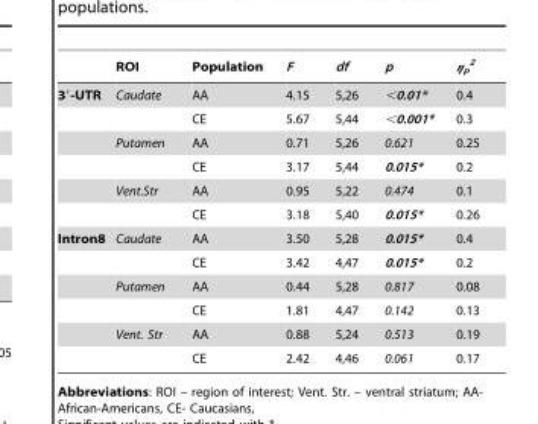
<table><thead><tr><td></td><td>ROI</td><td>Population</td><td>F</td><td>df</td><td>p</td><td>η<sub>p</sub> <sup>2</sup></td></tr></thead><tbody><tr><td rowspan="6">3′-UTR</td><td>Caudate</td><td>AA</td><td>4.15</td><td>5,26</td><td>&lt;0.01*</td><td>0.4</td></tr><tr><td></td><td>CE</td><td>5.67</td><td>5,44</td><td>&lt;0.001*</td><td>0.3</td></tr><tr><td>Putamen</td><td>AA</td><td>0.71</td><td>5,26</td><td>0.621</td><td>0.25</td></tr><tr><td></td><td>CE</td><td>3.17</td><td>5,44</td><td>0.015*</td><td>0.2</td></tr><tr><td>Vent.Str</td><td>AA</td><td>0.95</td><td>5,22</td><td>0.474</td><td>0.1</td></tr><tr><td></td><td>CE</td><td>3.18</td><td>5,40</td><td>0.015*</td><td>0.26</td></tr><tr><td rowspan="6">Intron8</td><td>Caudate</td><td>AA</td><td>3.50</td><td>5,28</td><td>0.015*</td><td>0.4</td></tr><tr><td></td><td>CE</td><td>3.42</td><td>4,47</td><td>0.015*</td><td>0.2</td></tr><tr><td>Putamen</td><td>AA</td><td>0.44</td><td>5,28</td><td>0.817</td><td>0.08</td></tr><tr><td></td><td>CE</td><td>1.81</td><td>4,47</td><td>0.142</td><td>0.13</td></tr><tr><td>Vent. Str</td><td>AA</td><td>0.88</td><td>5,24</td><td>0.513</td><td>0.19</td></tr><tr><td></td><td>CE</td><td>2.42</td><td>4,46</td><td>0.061</td><td>0.17</td></tr></tbody></table>